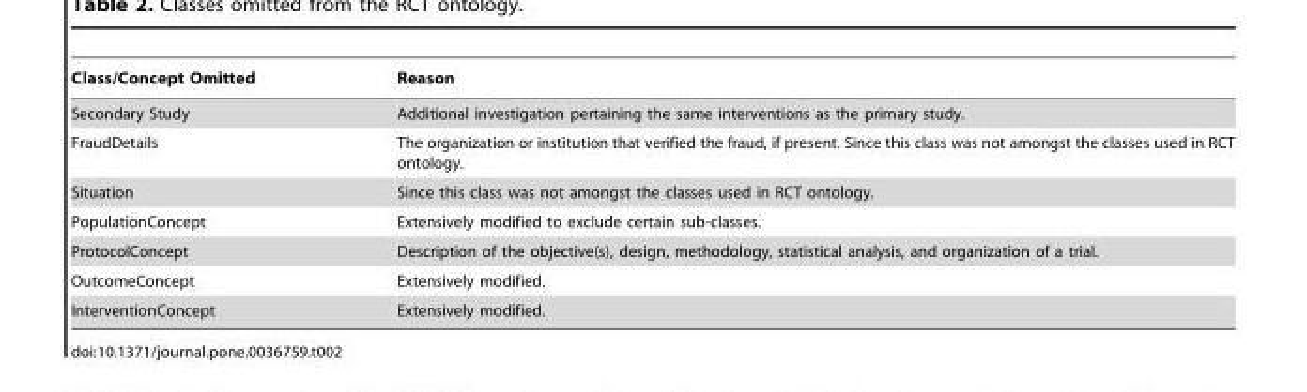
<table><thead><tr><td>Class/Concept Omitted</td><td>Reason</td></tr></thead><tbody><tr><td>Secondary Study</td><td>Additional investigation pertaining the same interventions as the primary study.</td></tr><tr><td>FraudDetails</td><td>The organization or institution that verified the fraud, if present. Since this class was not amongst the classes used in RCT ontology.</td></tr><tr><td>Situation</td><td>Since this class was not amongst the classes used in RCT ontology.</td></tr><tr><td>PopulationConcept</td><td>Extensively modified to exclude certain sub-classes.</td></tr><tr><td>ProtocolConcept</td><td>Description of the objective(s), design, methodology, statistical analysis, and organization of a trial.</td></tr><tr><td>OutcomeConcept</td><td>Extensively modified.</td></tr><tr><td>InterventionConcept</td><td>Extensively modified.</td></tr></tbody></table>